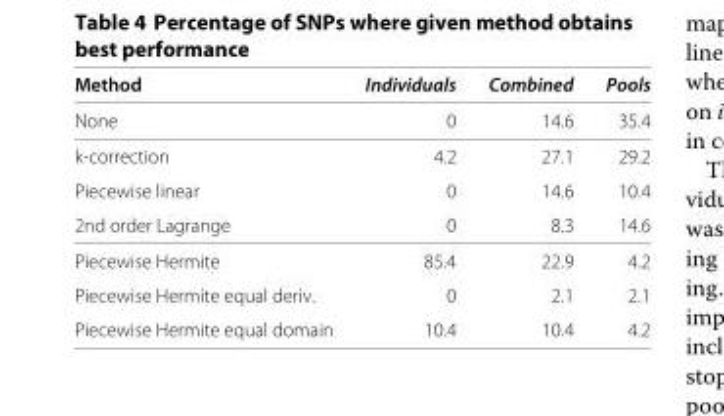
<table><thead><tr><td>Method</td><td>Individuals</td><td>Combined</td><td>Pools</td></tr></thead><tbody><tr><td>None</td><td>0</td><td>14.6</td><td>35.4</td></tr><tr><td>k-correction</td><td>4.2</td><td>27.1</td><td>29.2</td></tr><tr><td>Piecewise linear</td><td>0</td><td>14.6</td><td>10.4</td></tr><tr><td>2nd order Lagrange</td><td>0</td><td>8.3</td><td>14.6</td></tr><tr><td>Piecewise Hermite</td><td>85.4</td><td>22.9</td><td>4.2</td></tr><tr><td>Piecewise Hermite equal deriv.</td><td>0</td><td>2.1</td><td>2.1</td></tr><tr><td>Piecewise Hermite equal domain</td><td>10.4</td><td>10.4</td><td>4.2</td></tr></tbody></table>